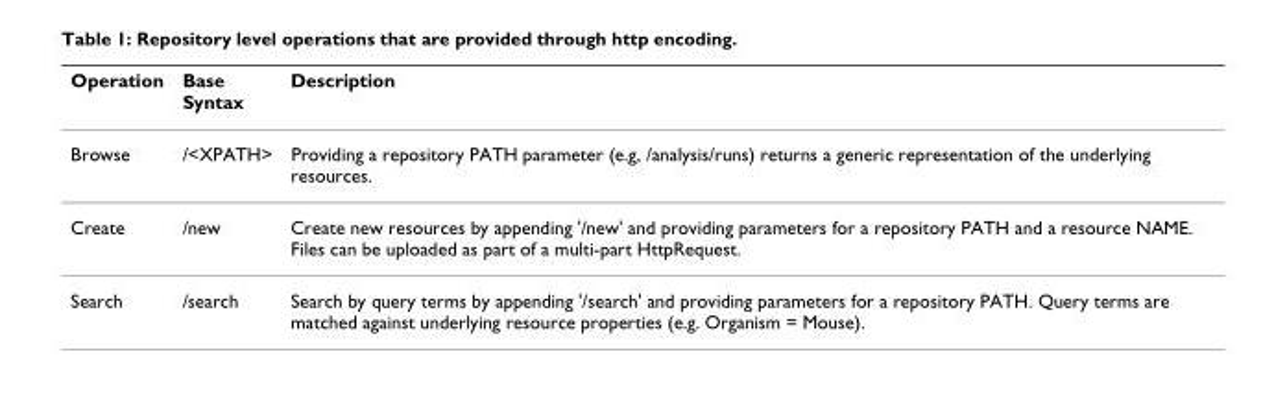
<table><thead><tr><td>Operation</td><td>Base Syntax</td><td>Description</td></tr></thead><tbody><tr><td>Browse</td><td>/&lt;XPATH&gt;</td><td>Providing a repository PATH parameter (e.g, /analysis/runs) returns a generic representation of the underlying resources.</td></tr><tr><td>Create</td><td>/new</td><td>Create new resources by appending &#x27;/new&#x27; and providing parameters for a repository PATH and a resource NAME. Files can be uploaded as part of a multi-part HttpRequest.</td></tr><tr><td>Search</td><td>/search</td><td>Search by query terms by appending &#x27;/search&#x27; and providing parameters for a repository PATH. Query terms are matched against underlying resource properties (e.g. Organism = Mouse).</td></tr></tbody></table>